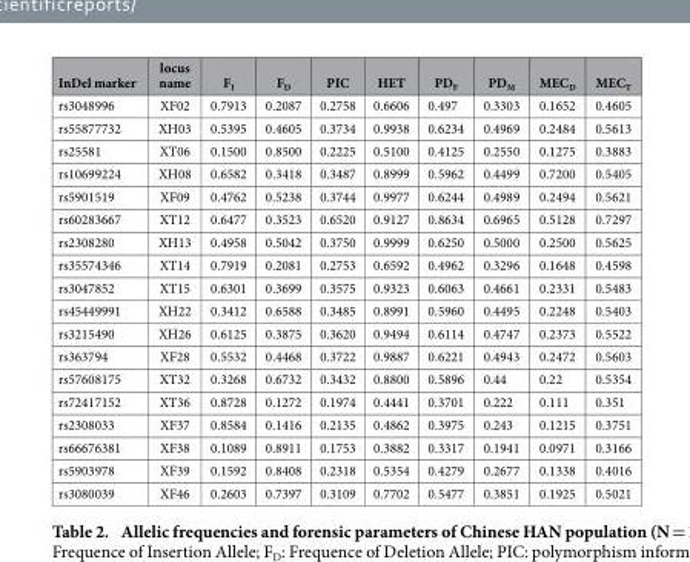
<table><thead><tr><td>InDel marker</td><td>locus name</td><td>F<sub>I</sub></td><td>F<sub>D</sub></td><td>PIC</td><td>HET</td><td>PD<sub>F</sub></td><td>PD<sub>M</sub></td><td>MEC<sub>D</sub></td><td>MEC<sub>T</sub></td></tr></thead><tbody><tr><td>rs3048996</td><td>XF02</td><td>0.7913</td><td>0.2087</td><td>0.2758</td><td>0.6606</td><td>0.497</td><td>0.3303</td><td>0.1652</td><td>0.4605</td></tr><tr><td>rs55877732</td><td>XH03</td><td>0.5395</td><td>0.4605</td><td>0.3734</td><td>0.9938</td><td>0.6234</td><td>0.4969</td><td>0.2484</td><td>0.5613</td></tr><tr><td>rs25581</td><td>XT06</td><td>0.1500</td><td>0.8500</td><td>0.2225</td><td>0.5100</td><td>0.4125</td><td>0.2550</td><td>0.1275</td><td>0.3883</td></tr><tr><td>rs10699224</td><td>XH08</td><td>0.6582</td><td>0.3418</td><td>0.3487</td><td>0.8999</td><td>0.5962</td><td>0.4499</td><td>0.7200</td><td>0.5405</td></tr><tr><td>rs5901519</td><td>XF09</td><td>0.4762</td><td>0.5238</td><td>0.3744</td><td>0.9977</td><td>0.6244</td><td>0.4989</td><td>0.2494</td><td>0.5621</td></tr><tr><td>rs60283667</td><td>XT12</td><td>0.6477</td><td>0.3523</td><td>0.6520</td><td>0.9127</td><td>0.8634</td><td>0.6965</td><td>0.5128</td><td>0.7297</td></tr><tr><td>rs2308280</td><td>XH13</td><td>0.4958</td><td>0.5042</td><td>0.3750</td><td>0.9999</td><td>0.6250</td><td>0.5000</td><td>0.2500</td><td>0.5625</td></tr><tr><td>rs35574346</td><td>XT14</td><td>0.7919</td><td>0.2081</td><td>0.2753</td><td>0.6592</td><td>0.4962</td><td>0.3296</td><td>0.1648</td><td>0.4598</td></tr><tr><td>rs3047852</td><td>XT15</td><td>0.6301</td><td>0.3699</td><td>0.3575</td><td>0.9323</td><td>0.6063</td><td>0.4661</td><td>0.2331</td><td>0.5483</td></tr><tr><td>rs45449991</td><td>XH22</td><td>0.3412</td><td>0.6588</td><td>0.3485</td><td>0.8991</td><td>0.5960</td><td>0.4495</td><td>0.2248</td><td>0.5403</td></tr><tr><td>rs3215490</td><td>XH26</td><td>0.6125</td><td>0.3875</td><td>0.3620</td><td>0.9494</td><td>0.6114</td><td>0.4747</td><td>0.2373</td><td>0.5522</td></tr><tr><td>rs363794</td><td>XF28</td><td>0.5532</td><td>0.4468</td><td>0.3722</td><td>0.9887</td><td>0.6221</td><td>0.4943</td><td>0.2472</td><td>0.5603</td></tr><tr><td>rs57608175</td><td>XT32</td><td>0.3268</td><td>0.6732</td><td>0.3432</td><td>0.8800</td><td>0.5896</td><td>0.44</td><td>0.22</td><td>0.5354</td></tr><tr><td>rs72417152</td><td>XT36</td><td>0.8728</td><td>0.1272</td><td>0.1974</td><td>0.4441</td><td>0.3701</td><td>0.222</td><td>0.111</td><td>0.351</td></tr><tr><td>rs2308033</td><td>XF37</td><td>0.8584</td><td>0.1416</td><td>0.2135</td><td>0.4862</td><td>0.3975</td><td>0.243</td><td>0.1215</td><td>0.3751</td></tr><tr><td>rs66676381</td><td>XF38</td><td>0.1089</td><td>0.8911</td><td>0.1753</td><td>0.3882</td><td>0.3317</td><td>0.1941</td><td>0.0971</td><td>0.3166</td></tr><tr><td>rs5903978</td><td>XF39</td><td>0.1592</td><td>0.8408</td><td>0.2318</td><td>0.5354</td><td>0.4279</td><td>0.2677</td><td>0.1338</td><td>0.4016</td></tr><tr><td>rs3080039</td><td>XF46</td><td>0.2603</td><td>0.7397</td><td>0.3109</td><td>0.7702</td><td>0.5477</td><td>0.3851</td><td>0.1925</td><td>0.5021</td></tr></tbody></table>